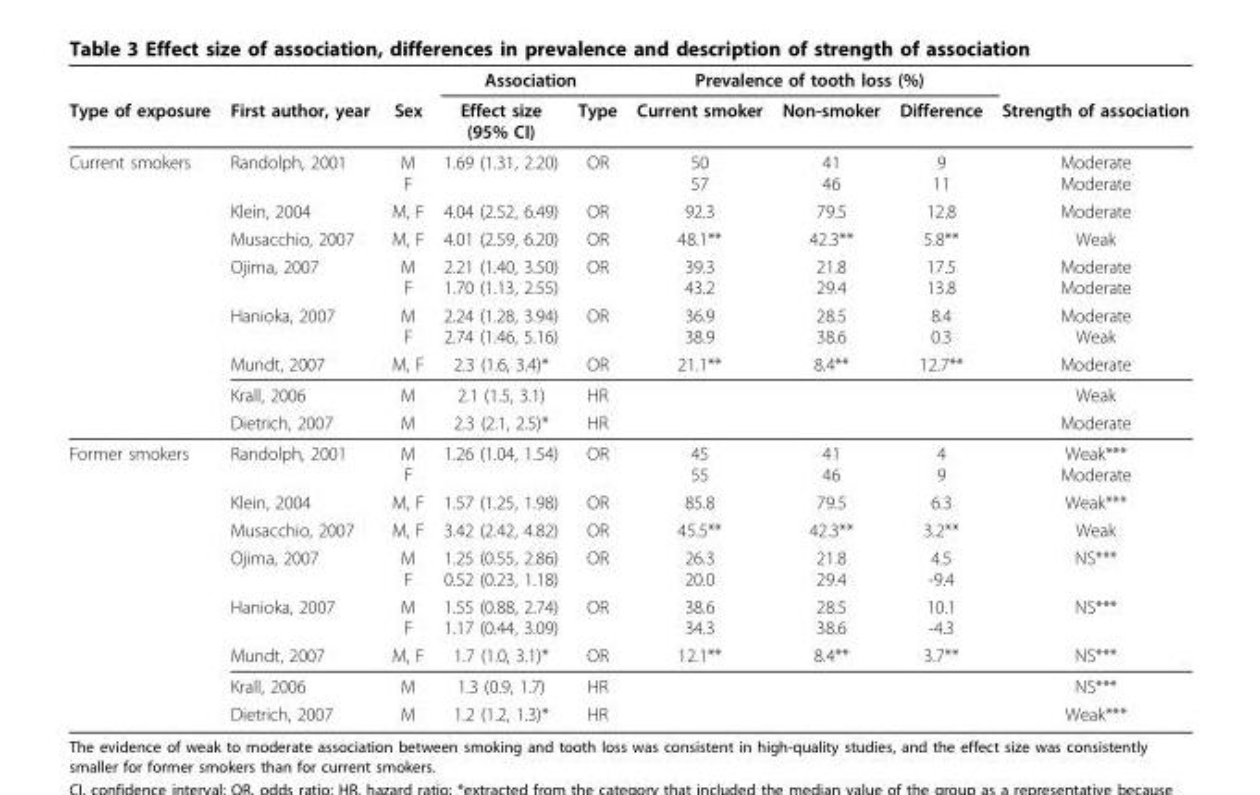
<table><thead><tr><td rowspan="2">Type of exposure</td><td rowspan="2">First author, year</td><td rowspan="2">Sex</td><td colspan="2">Association</td><td colspan="3">Prevalence of tooth loss (%)</td><td rowspan="2">Strength of association</td></tr><tr><td>Effect size (95% CI)</td><td>Type</td><td>Current smoker</td><td>Non-smoker</td><td>Difference</td></tr></thead><tbody><tr><td rowspan="8">Current smokers</td><td>Randolph, 2001</td><td>M F</td><td>1.69 (1.31, 2.20)</td><td>OR</td><td>50 57</td><td>41 46</td><td>9 11</td><td>Moderate Moderate</td></tr><tr><td>Klein, 2004</td><td>M, F</td><td>4.04 (2.52, 6.49)</td><td>OR</td><td>92.3</td><td>79.5</td><td>12.8</td><td>Moderate</td></tr><tr><td>Musacchio, 2007</td><td>M, F</td><td>4.01 (2.59, 6.20)</td><td>OR</td><td>48.1**</td><td>42.3**</td><td>5.8**</td><td>Weak</td></tr><tr><td>Ojima, 2007</td><td>M F</td><td>2.21 (1.40, 3.50) 1.70 (1.13, 2.55)</td><td>OR</td><td>39.3 43.2</td><td>21.8 29.4</td><td>17.5 13.8</td><td>Moderate Moderate</td></tr><tr><td>Hanioka, 2007</td><td>M F</td><td>2.24 (1.28, 3.94) 2.74 (1.46, 5.16)</td><td>OR</td><td>36.9 38.9</td><td>28.5 38.6</td><td>8.4 0.3</td><td>Moderate Weak</td></tr><tr><td>Mundt, 2007</td><td>M, F</td><td>2.3 (1.6, 3.4)*</td><td>OR</td><td>21.1**</td><td>8.4**</td><td>12.7**</td><td>Moderate</td></tr><tr><td>Krall, 2006</td><td>M</td><td>2.1 (1.5, 3.1)</td><td>HR</td><td></td><td></td><td></td><td>Weak</td></tr><tr><td>Dietrich, 2007</td><td>M</td><td>2.3 (2.1, 2.5)*</td><td>HR</td><td></td><td></td><td></td><td>Moderate</td></tr><tr><td rowspan="8">Former smokers</td><td>Randolph, 2001</td><td>M F</td><td>1.26 (1.04, 1.54)</td><td>OR</td><td>45 55</td><td>41 46</td><td>4 9</td><td>Weak*** Moderate</td></tr><tr><td>Klein, 2004</td><td>M, F</td><td>1.57 (1.25, 1.98)</td><td>OR</td><td>85.8</td><td>79.5</td><td>6.3</td><td>Weak***</td></tr><tr><td>Musacchio, 2007</td><td>M, F</td><td>3.42 (2.42, 4.82)</td><td>OR</td><td>45.5**</td><td>42.3**</td><td>3.2**</td><td>Weak</td></tr><tr><td>Ojima, 2007</td><td>M F</td><td>1.25 (0.55, 2.86) 0.52 (0.23, 1.18)</td><td>OR</td><td>26.3 20.0</td><td>21.8 29.4</td><td>4.5 -9.4</td><td>NS***</td></tr><tr><td>Hanioka, 2007</td><td>M F</td><td>1.55 (0.88, 2.74) 1.17 (0.44, 3.09)</td><td>OR</td><td>38.6 34.3</td><td>28.5 38.6</td><td>10.1 -4.3</td><td>NS***</td></tr><tr><td>Mundt, 2007</td><td>M, F</td><td>1.7 (1.0, 3.1)*</td><td>OR</td><td>12.1**</td><td>8.4**</td><td>3.7**</td><td>NS***</td></tr><tr><td>Krall, 2006</td><td>M</td><td>1.3 (0.9, 1.7)</td><td>HR</td><td></td><td></td><td></td><td>NS***</td></tr><tr><td>Dietrich, 2007</td><td>M</td><td>1.2 (1.2, 1.3)*</td><td>HR</td><td></td><td></td><td></td><td>Weak***</td></tr></tbody></table>